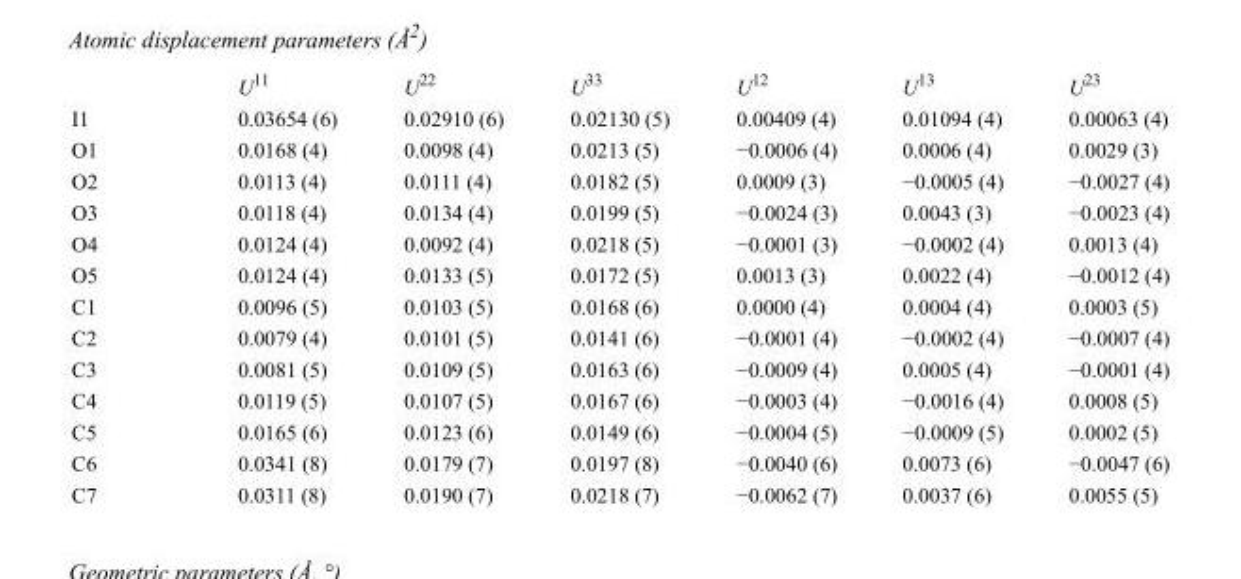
<table><thead><tr><td></td><td>U<sup>11</sup></td><td>U<sup>22</sup></td><td>U<sup>33</sup></td><td>U<sup>12</sup></td><td>U<sup>13</sup></td><td>U<sup>23</sup></td></tr></thead><tbody><tr><td>I1</td><td>0.03654 (6)</td><td>0.02910 (6)</td><td>0.02130 (5)</td><td>0.00409 (4)</td><td>0.01094 (4)</td><td>0.00063 (4)</td></tr><tr><td>O1</td><td>0.0168 (4)</td><td>0.0098 (4)</td><td>0.0213 (5)</td><td>−0.0006 (4)</td><td>0.0006 (4)</td><td>0.0029 (3)</td></tr><tr><td>O2</td><td>0.0113 (4)</td><td>0.0111 (4)</td><td>0.0182 (5)</td><td>0.0009 (3)</td><td>−0.0005 (4)</td><td>−0.0027 (4)</td></tr><tr><td>O3</td><td>0.0118 (4)</td><td>0.0134 (4)</td><td>0.0199 (5)</td><td>−0.0024 (3)</td><td>0.0043 (3)</td><td>−0.0023 (4)</td></tr><tr><td>O4</td><td>0.0124 (4)</td><td>0.0092 (4)</td><td>0.0218 (5)</td><td>−0.0001 (3)</td><td>−0.0002 (4)</td><td>0.0013 (4)</td></tr><tr><td>O5</td><td>0.0124 (4)</td><td>0.0133 (5)</td><td>0.0172 (5)</td><td>0.0013 (3)</td><td>0.0022 (4)</td><td>−0.0012 (4)</td></tr><tr><td>C1</td><td>0.0096 (5)</td><td>0.0103 (5)</td><td>0.0168 (6)</td><td>0.0000 (4)</td><td>0.0004 (4)</td><td>0.0003 (5)</td></tr><tr><td>C2</td><td>0.0079 (4)</td><td>0.0101 (5)</td><td>0.0141 (6)</td><td>−0.0001 (4)</td><td>−0.0002 (4)</td><td>−0.0007 (4)</td></tr><tr><td>C3</td><td>0.0081 (5)</td><td>0.0109 (5)</td><td>0.0163 (6)</td><td>−0.0009 (4)</td><td>0.0005 (4)</td><td>−0.0001 (4)</td></tr><tr><td>C4</td><td>0.0119 (5)</td><td>0.0107 (5)</td><td>0.0167 (6)</td><td>−0.0003 (4)</td><td>−0.0016 (4)</td><td>0.0008 (5)</td></tr><tr><td>C5</td><td>0.0165 (6)</td><td>0.0123 (6)</td><td>0.0149 (6)</td><td>−0.0004 (5)</td><td>−0.0009 (5)</td><td>0.0002 (5)</td></tr><tr><td>C6</td><td>0.0341 (8)</td><td>0.0179 (7)</td><td>0.0197 (8)</td><td>−0.0040 (6)</td><td>0.0073 (6)</td><td>−0.0047 (6)</td></tr><tr><td>C7</td><td>0.0311 (8)</td><td>0.0190 (7)</td><td>0.0218 (7)</td><td>−0.0062 (7)</td><td>0.0037 (6)</td><td>0.0055 (5)</td></tr></tbody></table>